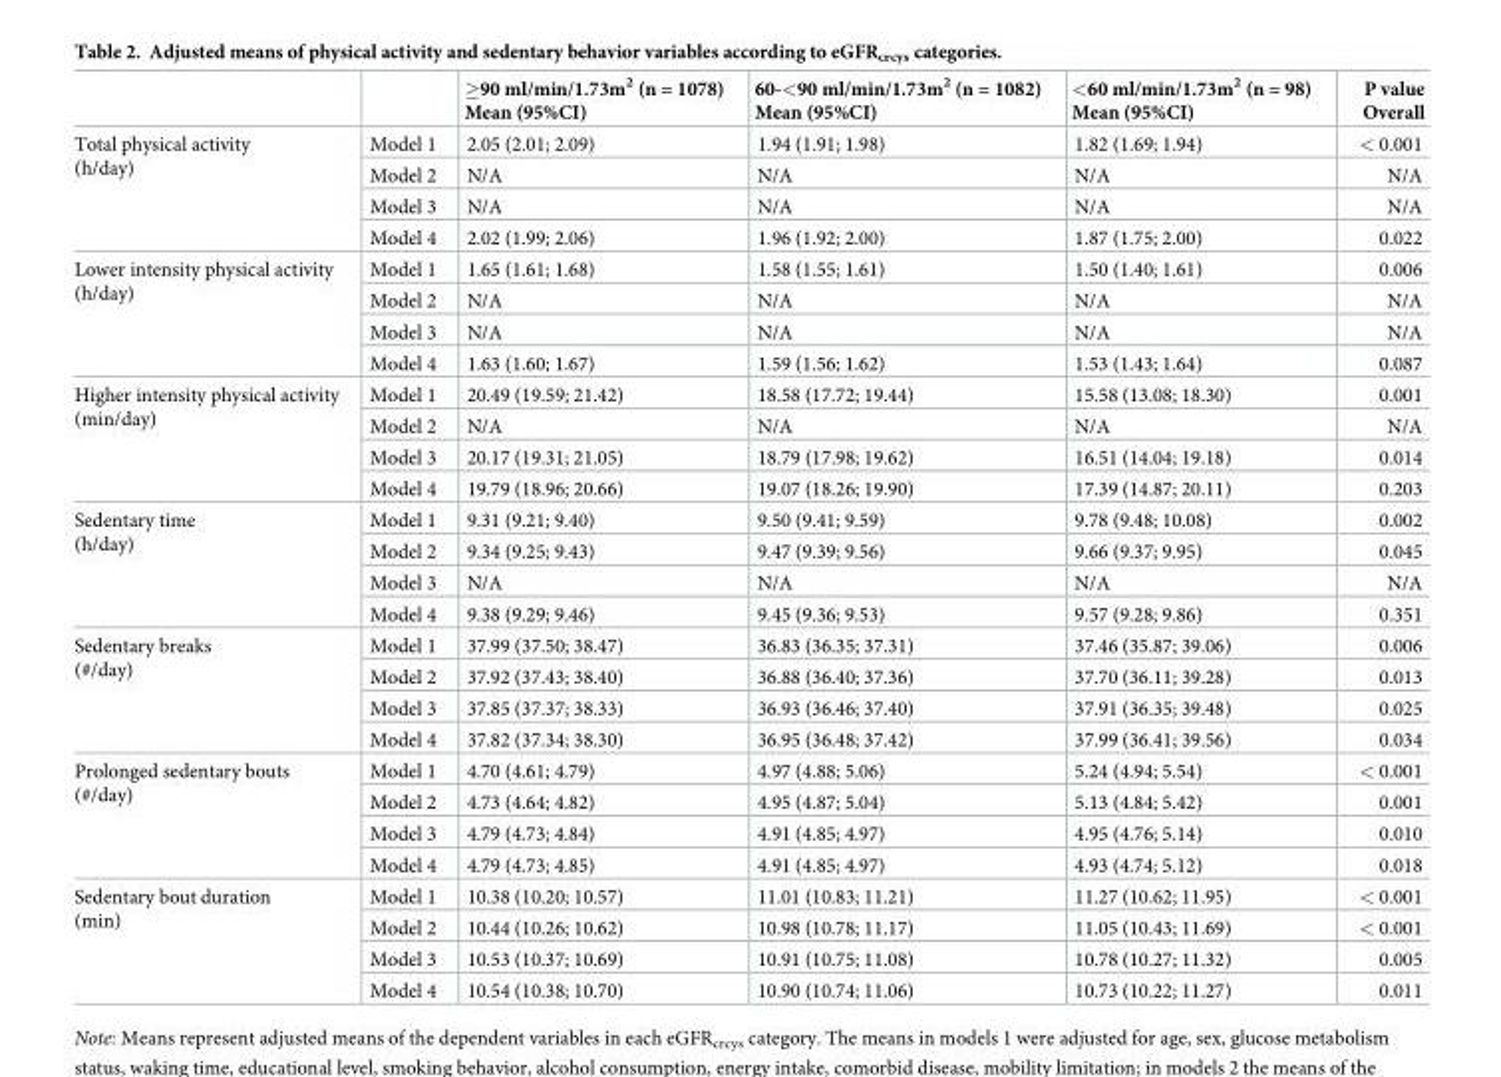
<table><thead><tr><td></td><td></td><td>≥90 ml/min/1.73m<sup>2</sup> (n = 1078) Mean (95%CI)</td><td>60-&lt;90 ml/min/1.73m<sup>2</sup> (n = 1082) Mean (95%CI)</td><td>&lt;60 ml/min/1.73m<sup>2</sup> (n = 98) Mean (95%CI)</td><td>P value Overall</td></tr></thead><tbody><tr><td rowspan="4">Total physical activity (h/day)</td><td>Model 1</td><td>2.05 (2.01; 2.09)</td><td>1.94 (1.91; 1.98)</td><td>1.82 (1.69; 1.94)</td><td>&lt; 0.001</td></tr><tr><td>Model 2</td><td>N/A</td><td>N/A</td><td>N/A</td><td>N/A</td></tr><tr><td>Model 3</td><td>N/A</td><td>N/A</td><td>N/A</td><td>N/A</td></tr><tr><td>Model 4</td><td>2.02 (1.99; 2.06)</td><td>1.96 (1.92; 2.00)</td><td>1.87 (1.75; 2.00)</td><td>0.022</td></tr><tr><td rowspan="4">Lower intensity physical activity (h/day)</td><td>Model 1</td><td>1.65 (1.61; 1.68)</td><td>1.58 (1.55; 1.61)</td><td>1.50 (1.40; 1.61)</td><td>0.006</td></tr><tr><td>Model 2</td><td>N/A</td><td>N/A</td><td>N/A</td><td>N/A</td></tr><tr><td>Model 3</td><td>N/A</td><td>N/A</td><td>N/A</td><td>N/A</td></tr><tr><td>Model 4</td><td>1.63 (1.60; 1.67)</td><td>1.59 (1.56; 1.62)</td><td>1.53 (1.43; 1.64)</td><td>0.087</td></tr><tr><td rowspan="4">Higher intensity physical activity (min/day)</td><td>Model 1</td><td>20.49 (19.59; 21.42)</td><td>18.58 (17.72; 19.44)</td><td>15.58 (13.08; 18.30)</td><td>0.001</td></tr><tr><td>Model 2</td><td>N/A</td><td>N/A</td><td>N/A</td><td>N/A</td></tr><tr><td>Model 3</td><td>20.17 (19.31; 21.05)</td><td>18.79 (17.98; 19.62)</td><td>16.51 (14.04; 19.18)</td><td>0.014</td></tr><tr><td>Model 4</td><td>19.79 (18.96; 20.66)</td><td>19.07 (18.26; 19.90)</td><td>17.39 (14.87; 20.11)</td><td>0.203</td></tr><tr><td rowspan="4">Sedentary time (h/day)</td><td>Model 1</td><td>9.31 (9.21; 9.40)</td><td>9.50 (9.41; 9.59)</td><td>9.78 (9.48; 10.08)</td><td>0.002</td></tr><tr><td>Model 2</td><td>9.34 (9.25; 9.43)</td><td>9.47 (9.39; 9.56)</td><td>9.66 (9.37; 9.95)</td><td>0.045</td></tr><tr><td>Model 3</td><td>N/A</td><td>N/A</td><td>N/A</td><td>N/A</td></tr><tr><td>Model 4</td><td>9.38 (9.29; 9.46)</td><td>9.45 (9.36; 9.53)</td><td>9.57 (9.28; 9.86)</td><td>0.351</td></tr><tr><td rowspan="4">Sedentary breaks (#/day)</td><td>Model 1</td><td>37.99 (37.50; 38.47)</td><td>36.83 (36.35; 37.31)</td><td>37.46 (35.87; 39.06)</td><td>0.006</td></tr><tr><td>Model 2</td><td>37.92 (37.43; 38.40)</td><td>36.88 (36.40; 37.36)</td><td>37.70 (36.11; 39.28)</td><td>0.013</td></tr><tr><td>Model 3</td><td>37.85 (37.37; 38.33)</td><td>36.93 (36.46; 37.40)</td><td>37.91 (36.35; 39.48)</td><td>0.025</td></tr><tr><td>Model 4</td><td>37.82 (37.34; 38.30)</td><td>36.95 (36.48; 37.42)</td><td>37.99 (36.41; 39.56)</td><td>0.034</td></tr><tr><td rowspan="4">Prolonged sedentary bouts (#/day)</td><td>Model 1</td><td>4.70 (4.61; 4.79)</td><td>4.97 (4.88; 5.06)</td><td>5.24 (4.94; 5.54)</td><td>&lt; 0.001</td></tr><tr><td>Model 2</td><td>4.73 (4.64; 4.82)</td><td>4.95 (4.87; 5.04)</td><td>5.13 (4.84; 5.42)</td><td>0.001</td></tr><tr><td>Model 3</td><td>4.79 (4.73; 4.84)</td><td>4.91 (4.85; 4.97)</td><td>4.95 (4.76; 5.14)</td><td>0.010</td></tr><tr><td>Model 4</td><td>4.79 (4.73; 4.85)</td><td>4.91 (4.85; 4.97)</td><td>4.93 (4.74; 5.12)</td><td>0.018</td></tr><tr><td rowspan="4">Sedentary bout duration (min)</td><td>Model 1</td><td>10.38 (10.20; 10.57)</td><td>11.01 (10.83; 11.21)</td><td>11.27 (10.62; 11.95)</td><td>&lt; 0.001</td></tr><tr><td>Model 2</td><td>10.44 (10.26; 10.62)</td><td>10.98 (10.78; 11.17)</td><td>11.05 (10.43; 11.69)</td><td>&lt; 0.001</td></tr><tr><td>Model 3</td><td>10.53 (10.37; 10.69)</td><td>10.91 (10.75; 11.08)</td><td>10.78 (10.27; 11.32)</td><td>0.005</td></tr><tr><td>Model 4</td><td>10.54 (10.38; 10.70)</td><td>10.90 (10.74; 11.06)</td><td>10.73 (10.22; 11.27)</td><td>0.011</td></tr></tbody></table>